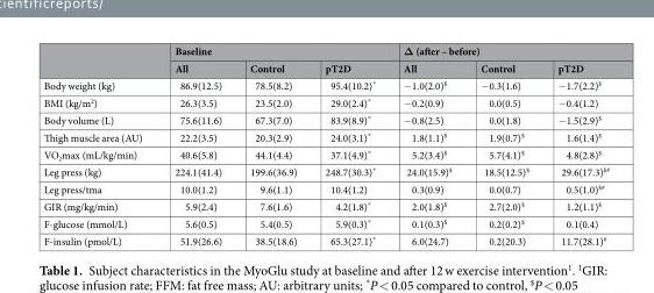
<table><thead><tr><td rowspan="2"></td><td colspan="3">Baseline</td><td colspan="3">Δ (after – before)</td></tr><tr><td>All</td><td>Control</td><td>pT2D</td><td>All</td><td>Control</td><td>pT2D</td></tr></thead><tbody><tr><td>Body weight (kg)</td><td>86.9(12.5)</td><td>78.5(8.2)</td><td>95.4(10.2)*</td><td>−1.0(2.0)<sup>$</sup></td><td>−0.3(1.6)</td><td>−1.7(2.2)<sup>$</sup></td></tr><tr><td>BMI (kg/m<sup>2</sup>)</td><td>26.3(3.5)</td><td>23.5(2.0)</td><td>29.0(2.4)*</td><td>−0.2(0.9)</td><td>0.0(0.5)</td><td>−0.4(1.2)</td></tr><tr><td>Body volume (L)</td><td>75.6(11.6)</td><td>67.3(7.0)</td><td>83.9(8.9)*</td><td>−0.8(2.5)</td><td>0.0(1.8)</td><td>−1.5(2.9)<sup>$</sup></td></tr><tr><td>Thigh muscle area (AU)</td><td>22.2(3.5)</td><td>20.3(2.9)</td><td>24.0(3.1)*</td><td>1.8(1.1)<sup>$</sup></td><td>1.9(0.7)<sup>$</sup></td><td>1.6(1.4)<sup>$</sup></td></tr><tr><td>VO<sub>2</sub>max (mL/kg/min)</td><td>40.6(5.8)</td><td>44.1(4.4)</td><td>37.1(4.9)*</td><td>5.2(3.4)<sup>$</sup></td><td>5.7(4.1)<sup>$</sup></td><td>4.8(2.8)<sup>$</sup></td></tr><tr><td>Leg press (kg)</td><td>224.1(41.4)</td><td>199.6(36.9)</td><td>248.7(30.3)*</td><td>24.0(15.9)<sup>$</sup></td><td>18.5(12.5)<sup>$</sup></td><td>29.6(17.3)<sup>$#</sup></td></tr><tr><td>Leg press/tma</td><td>10.0(1.2)</td><td>9.6(1.1)</td><td>10.4(1.2)</td><td>0.3(0.9)</td><td>0.0(0.7)</td><td>0.5(1.0)<sup>$#</sup></td></tr><tr><td>GIR (mg/kg/min)</td><td>5.9(2.4)</td><td>7.6(1.6)</td><td>4.2(1.8)*</td><td>2.0(1.8)<sup>$</sup></td><td>2.7(2.0)<sup>$</sup></td><td>1.2(1.1)<sup>$</sup></td></tr><tr><td>F-glucose (mmol/L)</td><td>5.6(0.5)</td><td>5.4(0.5)</td><td>5.9(0.3)*</td><td>0.1(0.3)<sup>$</sup></td><td>0.2(0.2)<sup>$</sup></td><td>0.1(0.4)</td></tr><tr><td>F-insulin (pmol/L)</td><td>51.9(26.6)</td><td>38.5(18.6)</td><td>65.3(27.1)*</td><td>6.0(24.7)</td><td>0.2(20.3)</td><td>11.7(28.1)<sup>#</sup></td></tr></tbody></table>